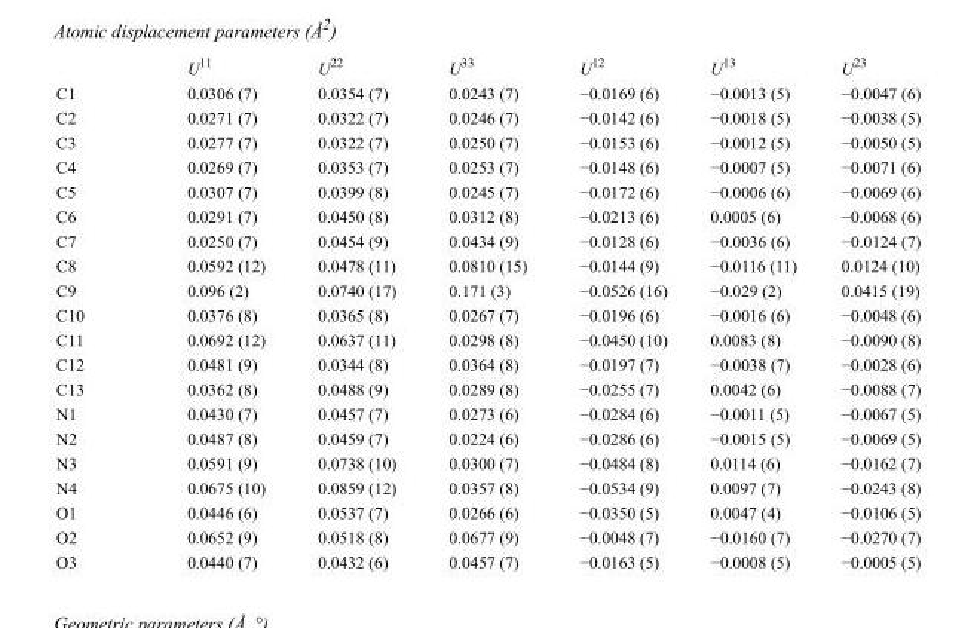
<table><thead><tr><td></td><td>U<sup>11</sup></td><td>U<sup>22</sup></td><td>U<sup>33</sup></td><td>U<sup>12</sup></td><td>U<sup>13</sup></td><td>U<sup>23</sup></td></tr></thead><tbody><tr><td>C1</td><td>0.0306 (7)</td><td>0.0354 (7)</td><td>0.0243 (7)</td><td>−0.0169 (6)</td><td>−0.0013 (5)</td><td>−0.0047 (6)</td></tr><tr><td>C2</td><td>0.0271 (7)</td><td>0.0322 (7)</td><td>0.0246 (7)</td><td>−0.0142 (6)</td><td>−0.0018 (5)</td><td>−0.0038 (5)</td></tr><tr><td>C3</td><td>0.0277 (7)</td><td>0.0322 (7)</td><td>0.0250 (7)</td><td>−0.0153 (6)</td><td>−0.0012 (5)</td><td>−0.0050 (5)</td></tr><tr><td>C4</td><td>0.0269 (7)</td><td>0.0353 (7)</td><td>0.0253 (7)</td><td>−0.0148 (6)</td><td>−0.0007 (5)</td><td>−0.0071 (6)</td></tr><tr><td>C5</td><td>0.0307 (7)</td><td>0.0399 (8)</td><td>0.0245 (7)</td><td>−0.0172 (6)</td><td>−0.0006 (6)</td><td>−0.0069 (6)</td></tr><tr><td>C6</td><td>0.0291 (7)</td><td>0.0450 (8)</td><td>0.0312 (8)</td><td>−0.0213 (6)</td><td>0.0005 (6)</td><td>−0.0068 (6)</td></tr><tr><td>C7</td><td>0.0250 (7)</td><td>0.0454 (9)</td><td>0.0434 (9)</td><td>−0.0128 (6)</td><td>−0.0036 (6)</td><td>−0.0124 (7)</td></tr><tr><td>C8</td><td>0.0592 (12)</td><td>0.0478 (11)</td><td>0.0810 (15)</td><td>−0.0144 (9)</td><td>−0.0116 (11)</td><td>0.0124 (10)</td></tr><tr><td>C9</td><td>0.096 (2)</td><td>0.0740 (17)</td><td>0.171 (3)</td><td>−0.0526 (16)</td><td>−0.029 (2)</td><td>0.0415 (19)</td></tr><tr><td>C10</td><td>0.0376 (8)</td><td>0.0365 (8)</td><td>0.0267 (7)</td><td>−0.0196 (6)</td><td>−0.0016 (6)</td><td>−0.0048 (6)</td></tr><tr><td>C11</td><td>0.0692 (12)</td><td>0.0637 (11)</td><td>0.0298 (8)</td><td>−0.0450 (10)</td><td>0.0083 (8)</td><td>−0.0090 (8)</td></tr><tr><td>C12</td><td>0.0481 (9)</td><td>0.0344 (8)</td><td>0.0364 (8)</td><td>−0.0197 (7)</td><td>−0.0038 (7)</td><td>−0.0028 (6)</td></tr><tr><td>C13</td><td>0.0362 (8)</td><td>0.0488 (9)</td><td>0.0289 (8)</td><td>−0.0255 (7)</td><td>0.0042 (6)</td><td>−0.0088 (7)</td></tr><tr><td>N1</td><td>0.0430 (7)</td><td>0.0457 (7)</td><td>0.0273 (6)</td><td>−0.0284 (6)</td><td>−0.0011 (5)</td><td>−0.0067 (5)</td></tr><tr><td>N2</td><td>0.0487 (8)</td><td>0.0459 (7)</td><td>0.0224 (6)</td><td>−0.0286 (6)</td><td>−0.0015 (5)</td><td>−0.0069 (5)</td></tr><tr><td>N3</td><td>0.0591 (9)</td><td>0.0738 (10)</td><td>0.0300 (7)</td><td>−0.0484 (8)</td><td>0.0114 (6)</td><td>−0.0162 (7)</td></tr><tr><td>N4</td><td>0.0675 (10)</td><td>0.0859 (12)</td><td>0.0357 (8)</td><td>−0.0534 (9)</td><td>0.0097 (7)</td><td>−0.0243 (8)</td></tr><tr><td>O1</td><td>0.0446 (6)</td><td>0.0537 (7)</td><td>0.0266 (6)</td><td>−0.0350 (5)</td><td>0.0047 (4)</td><td>−0.0106 (5)</td></tr><tr><td>O2</td><td>0.0652 (9)</td><td>0.0518 (8)</td><td>0.0677 (9)</td><td>−0.0048 (7)</td><td>−0.0160 (7)</td><td>−0.0270 (7)</td></tr><tr><td>O3</td><td>0.0440 (7)</td><td>0.0432 (6)</td><td>0.0457 (7)</td><td>−0.0163 (5)</td><td>−0.0008 (5)</td><td>−0.0005 (5)</td></tr></tbody></table>